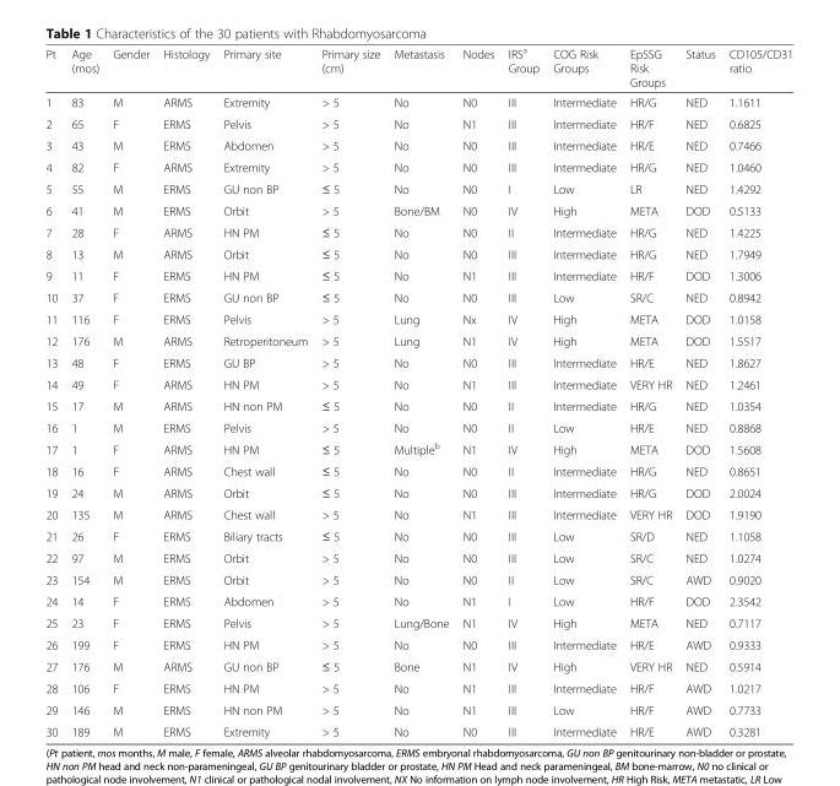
<table><thead><tr><td>Pt</td><td>Age (mos)</td><td>Gender</td><td>Histology</td><td>Primary site</td><td>Primary size (cm)</td><td>Metastasis</td><td>Nodes</td><td>IRS<sup>a</sup> Group</td><td>COG Risk Groups</td><td>EpSSG Risk Groups</td><td>Status</td><td>CD105/CD31 ratio</td></tr></thead><tbody><tr><td>1</td><td>83</td><td>M</td><td>ARMS</td><td>Extremity</td><td>&gt; 5</td><td>No</td><td>N0</td><td>III</td><td>Intermediate</td><td>HR/G</td><td>NED</td><td>1.1611</td></tr><tr><td>2</td><td>65</td><td>F</td><td>ERMS</td><td>Pelvis</td><td>&gt; 5</td><td>No</td><td>N1</td><td>III</td><td>Intermediate</td><td>HR/F</td><td>NED</td><td>0.6825</td></tr><tr><td>3</td><td>43</td><td>M</td><td>ERMS</td><td>Abdomen</td><td>&gt; 5</td><td>No</td><td>N0</td><td>III</td><td>Intermediate</td><td>HR/E</td><td>NED</td><td>0.7466</td></tr><tr><td>4</td><td>82</td><td>F</td><td>ARMS</td><td>Extremity</td><td>&gt; 5</td><td>No</td><td>N0</td><td>III</td><td>Intermediate</td><td>HR/G</td><td>NED</td><td>1.0460</td></tr><tr><td>5</td><td>55</td><td>M</td><td>ERMS</td><td>GU non BP</td><td>≤ 5</td><td>No</td><td>N0</td><td>I</td><td>Low</td><td>LR</td><td>NED</td><td>1.4292</td></tr><tr><td>6</td><td>41</td><td>M</td><td>ERMS</td><td>Orbit</td><td>&gt; 5</td><td>Bone/BM</td><td>N0</td><td>IV</td><td>High</td><td>META</td><td>DOD</td><td>0.5133</td></tr><tr><td>7</td><td>28</td><td>F</td><td>ARMS</td><td>HN PM</td><td>≤ 5</td><td>No</td><td>N0</td><td>II</td><td>Intermediate</td><td>HR/G</td><td>NED</td><td>1.4225</td></tr><tr><td>8</td><td>13</td><td>M</td><td>ARMS</td><td>Orbit</td><td>≤ 5</td><td>No</td><td>N0</td><td>III</td><td>Intermediate</td><td>HR/G</td><td>NED</td><td>1.7949</td></tr><tr><td>9</td><td>11</td><td>F</td><td>ERMS</td><td>HN PM</td><td>≤ 5</td><td>No</td><td>N1</td><td>III</td><td>Intermediate</td><td>HR/F</td><td>DOD</td><td>1.3006</td></tr><tr><td>10</td><td>37</td><td>F</td><td>ERMS</td><td>GU non BP</td><td>≤ 5</td><td>No</td><td>N0</td><td>III</td><td>Low</td><td>SR/C</td><td>NED</td><td>0.8942</td></tr><tr><td>11</td><td>116</td><td>F</td><td>ERMS</td><td>Pelvis</td><td>&gt; 5</td><td>Lung</td><td>Nx</td><td>IV</td><td>High</td><td>META</td><td>DOD</td><td>1.0158</td></tr><tr><td>12</td><td>176</td><td>M</td><td>ARMS</td><td>Retroperitoneum</td><td>&gt; 5</td><td>Lung</td><td>N1</td><td>IV</td><td>High</td><td>META</td><td>DOD</td><td>1.5517</td></tr><tr><td>13</td><td>48</td><td>F</td><td>ERMS</td><td>GU BP</td><td>&gt; 5</td><td>No</td><td>N0</td><td>III</td><td>Intermediate</td><td>HR/E</td><td>NED</td><td>1.8627</td></tr><tr><td>14</td><td>49</td><td>F</td><td>ARMS</td><td>HN PM</td><td>&gt; 5</td><td>No</td><td>N1</td><td>III</td><td>Intermediate</td><td>VERY HR</td><td>NED</td><td>1.2461</td></tr><tr><td>15</td><td>17</td><td>M</td><td>ARMS</td><td>HN non PM</td><td>≤ 5</td><td>No</td><td>N0</td><td>II</td><td>Intermediate</td><td>HR/G</td><td>NED</td><td>1.0354</td></tr><tr><td>16</td><td>1</td><td>M</td><td>ERMS</td><td>Pelvis</td><td>&gt; 5</td><td>No</td><td>N0</td><td>II</td><td>Low</td><td>HR/E</td><td>NED</td><td>0.8868</td></tr><tr><td>17</td><td>1</td><td>F</td><td>ARMS</td><td>HN PM</td><td>≤ 5</td><td>Multiple<sup>b</sup></td><td>N1</td><td>IV</td><td>High</td><td>META</td><td>DOD</td><td>1.5608</td></tr><tr><td>18</td><td>16</td><td>F</td><td>ARMS</td><td>Chest wall</td><td>≤ 5</td><td>No</td><td>N0</td><td>II</td><td>Intermediate</td><td>HR/G</td><td>NED</td><td>0.8651</td></tr><tr><td>19</td><td>24</td><td>M</td><td>ARMS</td><td>Orbit</td><td>≤ 5</td><td>No</td><td>N0</td><td>III</td><td>Intermediate</td><td>HR/G</td><td>DOD</td><td>2.0024</td></tr><tr><td>20</td><td>135</td><td>M</td><td>ARMS</td><td>Chest wall</td><td>&gt; 5</td><td>No</td><td>N1</td><td>III</td><td>Intermediate</td><td>VERY HR</td><td>DOD</td><td>1.9190</td></tr><tr><td>21</td><td>26</td><td>F</td><td>ERMS</td><td>Biliary tracts</td><td>≤ 5</td><td>No</td><td>N0</td><td>III</td><td>Low</td><td>SR/D</td><td>NED</td><td>1.1058</td></tr><tr><td>22</td><td>97</td><td>M</td><td>ERMS</td><td>Orbit</td><td>&gt; 5</td><td>No</td><td>N0</td><td>III</td><td>Low</td><td>SR/C</td><td>NED</td><td>1.0274</td></tr><tr><td>23</td><td>154</td><td>M</td><td>ERMS</td><td>Orbit</td><td>&gt; 5</td><td>No</td><td>N0</td><td>II</td><td>Low</td><td>SR/C</td><td>AWD</td><td>0.9020</td></tr><tr><td>24</td><td>14</td><td>F</td><td>ERMS</td><td>Abdomen</td><td>&gt; 5</td><td>No</td><td>N1</td><td>I</td><td>Low</td><td>HR/F</td><td>DOD</td><td>2.3542</td></tr><tr><td>25</td><td>23</td><td>F</td><td>ERMS</td><td>Pelvis</td><td>&gt; 5</td><td>Lung/Bone</td><td>N1</td><td>IV</td><td>High</td><td>META</td><td>NED</td><td>0.7117</td></tr><tr><td>26</td><td>199</td><td>F</td><td>ERMS</td><td>HN PM</td><td>&gt; 5</td><td>No</td><td>N0</td><td>III</td><td>Intermediate</td><td>HR/E</td><td>AWD</td><td>0.9333</td></tr><tr><td>27</td><td>176</td><td>M</td><td>ARMS</td><td>GU non BP</td><td>≤ 5</td><td>Bone</td><td>N1</td><td>IV</td><td>High</td><td>VERY HR</td><td>NED</td><td>0.5914</td></tr><tr><td>28</td><td>106</td><td>F</td><td>ERMS</td><td>HN PM</td><td>&gt; 5</td><td>No</td><td>N1</td><td>III</td><td>Intermediate</td><td>HR/F</td><td>AWD</td><td>1.0217</td></tr><tr><td>29</td><td>146</td><td>M</td><td>ERMS</td><td>HN non PM</td><td>&gt; 5</td><td>No</td><td>N1</td><td>III</td><td>Low</td><td>HR/F</td><td>AWD</td><td>0.7733</td></tr><tr><td>30</td><td>189</td><td>M</td><td>ERMS</td><td>Extremity</td><td>&gt; 5</td><td>No</td><td>N0</td><td>III</td><td>Intermediate</td><td>HR/E</td><td>AWD</td><td>0.3281</td></tr></tbody></table>